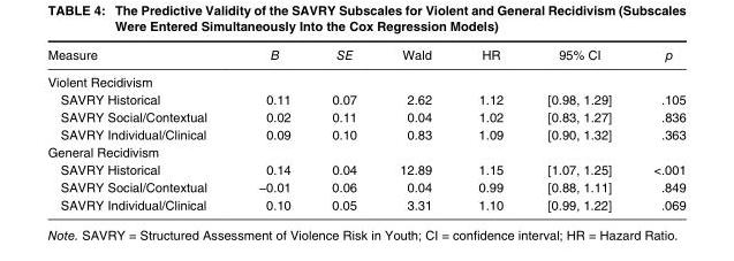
<table><thead><tr><td>Measure</td><td>B</td><td>SE</td><td>Wald</td><td>HR</td><td>95% CI</td><td>p</td></tr></thead><tbody><tr><td colspan="7">Violent Recidivism</td></tr><tr><td>SAVRY Historical</td><td>0.11</td><td>0.07</td><td>2.62</td><td>1.12</td><td>[0.98, 1.29]</td><td>.105</td></tr><tr><td>SAVRY Social/Contextual</td><td>0.02</td><td>0.11</td><td>0.04</td><td>1.02</td><td>[0.83, 1.27]</td><td>.836</td></tr><tr><td>SAVRY Individual/Clinical</td><td>0.09</td><td>0.10</td><td>0.83</td><td>1.09</td><td>[0.90, 1.32]</td><td>.363</td></tr><tr><td colspan="7">General Recidivism</td></tr><tr><td>SAVRY Historical</td><td>0.14</td><td>0.04</td><td>12.89</td><td>1.15</td><td>[1.07, 1.25]</td><td>&lt;.001</td></tr><tr><td>SAVRY Social/Contextual</td><td>−0.01</td><td>0.06</td><td>0.04</td><td>0.99</td><td>[0.88, 1.11]</td><td>.849</td></tr><tr><td>SAVRY Individual/Clinical</td><td>0.10</td><td>0.05</td><td>3.31</td><td>1.10</td><td>[0.99, 1.22]</td><td>.069</td></tr></tbody></table>